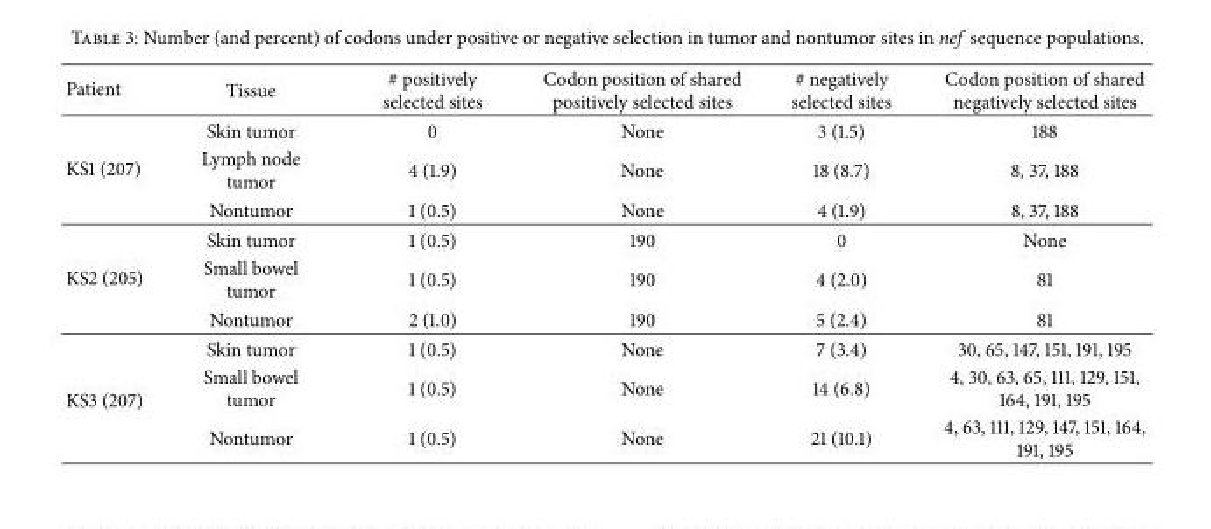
<table><thead><tr><td>Patient</td><td>Tissue</td><td># positively selected sites</td><td>Codon position of shared positively selected sites</td><td># negatively selected sites</td><td>Codon position of shared negatively selected sites</td></tr></thead><tbody><tr><td rowspan="3">KS1 (207)</td><td>Skin tumor</td><td>0</td><td>None</td><td>3 (1.5)</td><td>188</td></tr><tr><td>Lymph node tumor</td><td>4 (1.9)</td><td>None</td><td>18 (8.7)</td><td>8, 37, 188</td></tr><tr><td>Nontumor</td><td>1 (0.5)</td><td>None</td><td>4 (1.9)</td><td>8, 37, 188</td></tr><tr><td rowspan="3">KS2 (205)</td><td>Skin tumor</td><td>1 (0.5)</td><td>190</td><td>0</td><td>None</td></tr><tr><td>Small bowel tumor</td><td>1 (0.5)</td><td>190</td><td>4 (2.0)</td><td>81</td></tr><tr><td>Nontumor</td><td>2 (1.0)</td><td>190</td><td>5 (2.4)</td><td>81</td></tr><tr><td rowspan="3">KS3 (207)</td><td>Skin tumor</td><td>1 (0.5)</td><td>None</td><td>7 (3.4)</td><td>30, 65, 147, 151, 191, 195</td></tr><tr><td>Small bowel tumor</td><td>1 (0.5)</td><td>None</td><td>14 (6.8)</td><td>4, 30, 63, 65, 111, 129, 151, 164, 191, 195</td></tr><tr><td>Nontumor</td><td>1 (0.5)</td><td>None</td><td>21 (10.1)</td><td>4, 63, 111, 129, 147, 151, 164, 191, 195</td></tr></tbody></table>